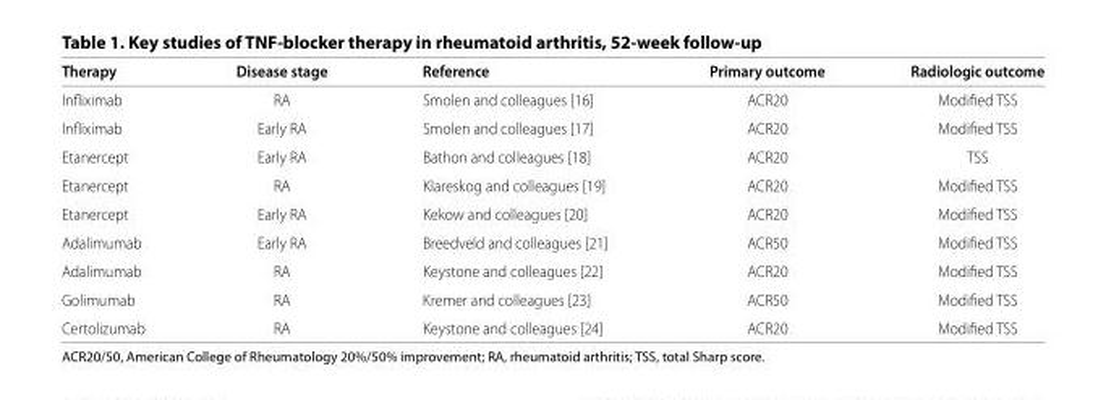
<table><thead><tr><td>Therapy</td><td>Disease stage</td><td>Reference</td><td>Primary outcome</td><td>Radiologic outcome</td></tr></thead><tbody><tr><td>Infl iximab</td><td>RA</td><td>Smolen and colleagues [16]</td><td>ACR20</td><td>Modifi ed TSS</td></tr><tr><td>Infl iximab</td><td>Early RA</td><td>Smolen and colleagues [17]</td><td>ACR20</td><td>Modifi ed TSS</td></tr><tr><td>Etanercept</td><td>Early RA</td><td>Bathon and colleagues [18]</td><td>ACR20</td><td>TSS</td></tr><tr><td>Etanercept</td><td>RA</td><td>Klareskog and colleagues [19]</td><td>ACR20</td><td>Modifi ed TSS</td></tr><tr><td>Etanercept</td><td>Early RA</td><td>Kekow and colleagues [20]</td><td>ACR20</td><td>Modifi ed TSS</td></tr><tr><td>Adalimumab</td><td>Early RA</td><td>Breedveld and colleagues [21]</td><td>ACR50</td><td>Modifi ed TSS</td></tr><tr><td>Adalimumab</td><td>RA</td><td>Keystone and colleagues [22]</td><td>ACR20</td><td>Modifi ed TSS</td></tr><tr><td>Golimumab</td><td>RA</td><td>Kremer and colleagues [23]</td><td>ACR50</td><td>Modifi ed TSS</td></tr><tr><td>Certolizumab</td><td>RA</td><td>Keystone and colleagues [24]</td><td>ACR20</td><td>Modifi ed TSS</td></tr></tbody></table>